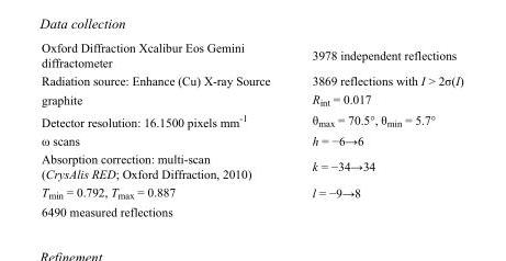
<table><tbody><tr><td>Oxford Diffraction Xcalibur Eos Gemini diffractometer</td><td>3978 independent reflections</td></tr><tr><td>Radiation source: Enhance (Cu) X-ray Source</td><td>3869 reflections with I &gt; 2σ(I)</td></tr><tr><td>graphite</td><td>R<sub>int</sub> = 0.017</td></tr><tr><td>Detector resolution: 16.1500 pixels mm<sup>-1</sup></td><td>θ<sub>max</sub> = 70.5°, θ<sub>min</sub> = 5.7°</td></tr><tr><td>ω scans</td><td>h = −6→6</td></tr><tr><td>Absorption correction: multi-scan (CrysAlis RED; Oxford Diffraction, 2010)</td><td>k = −34→34</td></tr><tr><td>T<sub>min</sub> = 0.792, T<sub>max</sub> = 0.887</td><td>l = −9→8</td></tr><tr><td>6490 measured reflections</td><td></td></tr></tbody></table>